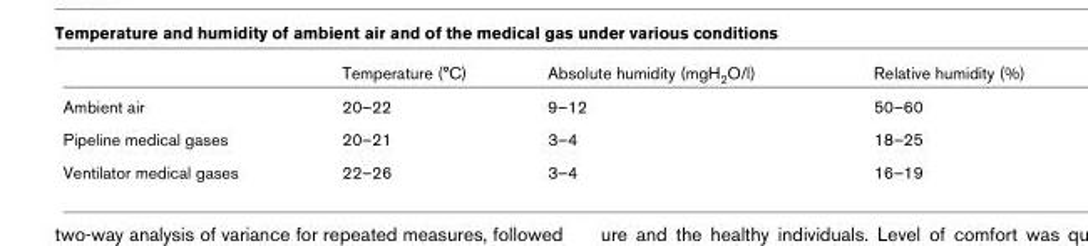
<table><thead><tr><td></td><td>Temperature (°C)</td><td>Absolute humidity (mgH<sub>2</sub>O/l)</td><td>Relative humidity (%)</td></tr></thead><tbody><tr><td>Ambient air</td><td>20–22</td><td>9–12</td><td>50–60</td></tr><tr><td>Pipeline medical gases</td><td>20–21</td><td>3–4</td><td>18–25</td></tr><tr><td>Ventilator medical gases</td><td>22–26</td><td>3–4</td><td>16–19</td></tr></tbody></table>